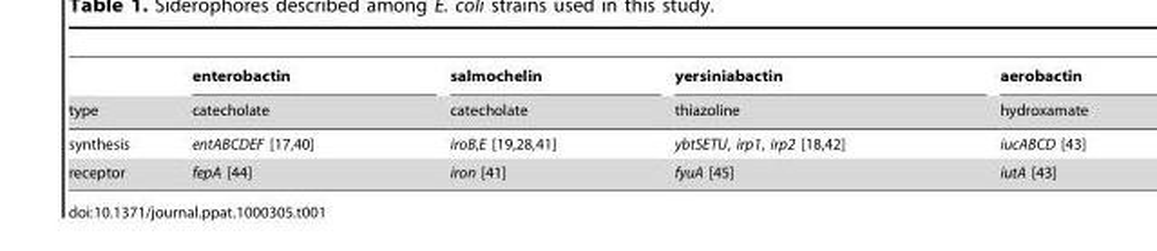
<table><thead><tr><td rowspan="2">type</td><td rowspan="2">enterobactin catecholate</td><td rowspan="2">salmochelin catecholate</td><td rowspan="2">yersiniabactin thiazoline</td><td rowspan="2">aerobactin hydroxamate</td></tr><tr></tr></thead><tbody><tr><td>synthesis</td><td>entABCDEF [17,40]</td><td>iroB,E [19,28,41]</td><td>ybtSETU, irp1, irp2 [18,42]</td><td>iucABCD [43]</td></tr><tr><td>receptor</td><td>fepA [44]</td><td>iron [41]</td><td>fyuA [45]</td><td>iutA [43]</td></tr></tbody></table>